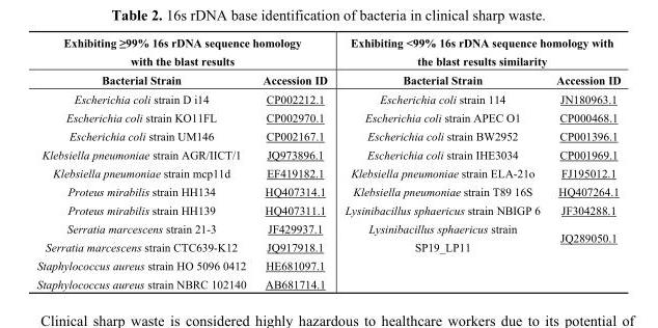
<table><thead><tr><td colspan="2">Exhibiting ≥99% 16s rDNA sequence homology with the blast results</td><td colspan="2">Exhibiting &lt;99% 16s rDNA sequence homology with the blast results similarity</td></tr><tr><td>Bacterial Strain</td><td>Accession ID</td><td>Bacterial Strain</td><td>Accession ID</td></tr></thead><tbody><tr><td>Escherichia coli strain D i14</td><td>CP002212.1</td><td>Escherichia coli strain 114</td><td>JN180963.1</td></tr><tr><td>Escherichia coli strain KO11FL</td><td>CP002970.1</td><td>Escherichia coli strain APEC O1</td><td>CP000468.1</td></tr><tr><td>Escherichia coli strain UM146</td><td>CP002167.1</td><td>Escherichia coli strain BW2952</td><td>CP001396.1</td></tr><tr><td>Klebsiella pneumoniae strain AGR/IICT/1</td><td>JQ973896.1</td><td>Escherichia coli strain IHE3034</td><td>CP001969.1</td></tr><tr><td>Klebsiella pneumoniae strain mcp11d</td><td>EF419182.1</td><td>Klebsiella pneumoniae strain ELA-21o</td><td>FJ195012.1</td></tr><tr><td>Proteus mirabilis strain HH134</td><td>HQ407314.1</td><td>Klebsiella pneumoniae strain T89 16S</td><td>HQ407264.1</td></tr><tr><td>Proteus mirabilis strain HH139</td><td>HQ407311.1</td><td>Lysinibacillus sphaericus strain NBIGP 6</td><td>JF304288.1</td></tr><tr><td>Serratia marcescens strain 21-3</td><td>JF429937.1</td><td rowspan="2">Lysinibacillus sphaericus strain SP19_LP11</td><td rowspan="2">JQ289050.1</td></tr><tr><td>Serratia marcescens strain CTC639-K12</td><td>JQ917918.1</td></tr><tr><td>Staphylococcus aureus strain HO 5096 0412</td><td>HE681097.1</td><td rowspan="2" colspan="2"></td></tr><tr><td>Staphylococcus aureus strain NBRC 102140</td><td>AB681714.1</td></tr></tbody></table>